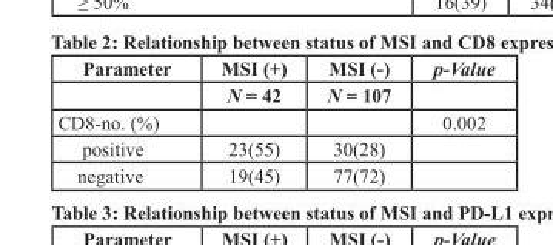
<table><thead><tr><td rowspan="2">Parameter</td><td rowspan="2">MSI (+) N = 42</td><td rowspan="2">MSI (-) N = 107</td><td rowspan="2">p-Value</td></tr><tr></tr></thead><tbody><tr><td>CD8-no. (%)</td><td></td><td></td><td>0.002</td></tr><tr><td>positive</td><td>23(55)</td><td>30(28)</td><td></td></tr><tr><td>negative</td><td>19(45)</td><td>77(72)</td><td></td></tr></tbody></table>